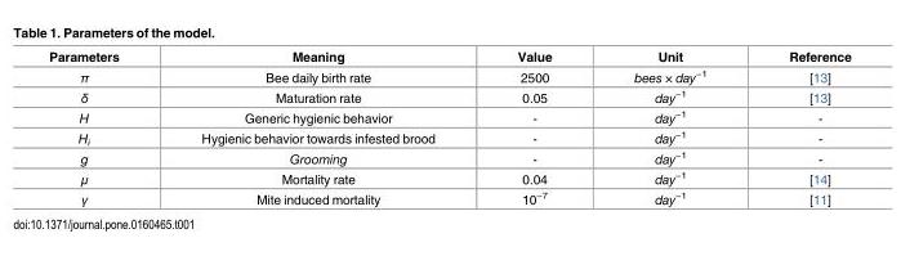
<table><thead><tr><td>Parameters</td><td>Meaning</td><td>Value</td><td>Unit</td><td>Reference</td></tr></thead><tbody><tr><td>π</td><td>Bee daily birth rate</td><td>2500</td><td>bees × day<sup>−1</sup></td><td>[13]</td></tr><tr><td>δ</td><td>Maturation rate</td><td>0.05</td><td>day<sup>−1</sup></td><td>[13]</td></tr><tr><td>H</td><td>Generic hygienic behavior</td><td>-</td><td>day<sup>−1</sup></td><td>-</td></tr><tr><td>H<sub>i</sub></td><td>Hygienic behavior towards infested brood</td><td>-</td><td>day<sup>−1</sup></td><td>-</td></tr><tr><td>g</td><td>Grooming</td><td>-</td><td>day<sup>−1</sup></td><td>-</td></tr><tr><td>μ</td><td>Mortality rate</td><td>0.04</td><td>day<sup>−1</sup></td><td>[14]</td></tr><tr><td>γ</td><td>Mite induced mortality</td><td>10<sup>−7</sup></td><td>day<sup>−1</sup></td><td>[11]</td></tr></tbody></table>